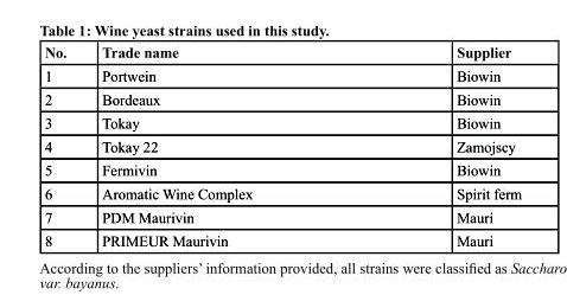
<table><thead><tr><td>No.</td><td>trade name</td><td>supplier</td></tr></thead><tbody><tr><td>1</td><td>Portwein</td><td>Biowin</td></tr><tr><td>2</td><td>Bordeaux</td><td>Biowin</td></tr><tr><td>3</td><td>Tokay</td><td>Biowin</td></tr><tr><td>4</td><td>Tokay 22</td><td>Zamojscy</td></tr><tr><td>5</td><td>Fermivin</td><td>Biowin</td></tr><tr><td>6</td><td>Aromatic Wine Complex</td><td>Spirit ferm</td></tr><tr><td>7</td><td>PDM Maurivin</td><td>Mauri</td></tr><tr><td>8</td><td>PRIMEUR Maurivin</td><td>Mauri</td></tr></tbody></table>